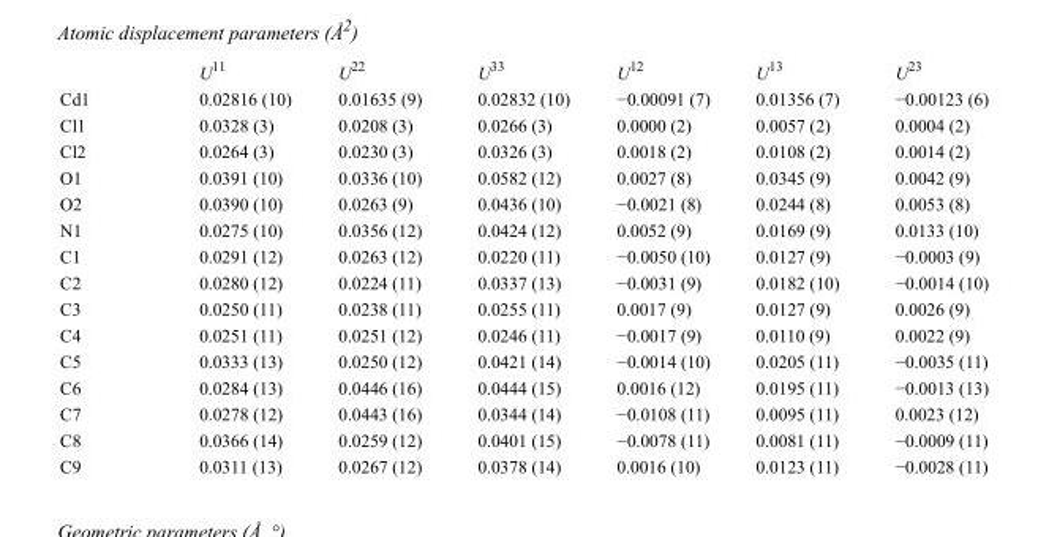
<table><thead><tr><td></td><td>U<sup>11</sup></td><td>U<sup>22</sup></td><td>U<sup>33</sup></td><td>U<sup>12</sup></td><td>U<sup>13</sup></td><td>U<sup>23</sup></td></tr></thead><tbody><tr><td>Cd1</td><td>0.02816 (10)</td><td>0.01635 (9)</td><td>0.02832 (10)</td><td>−0.00091 (7)</td><td>0.01356 (7)</td><td>−0.00123 (6)</td></tr><tr><td>Cl1</td><td>0.0328 (3)</td><td>0.0208 (3)</td><td>0.0266 (3)</td><td>0.0000 (2)</td><td>0.0057 (2)</td><td>0.0004 (2)</td></tr><tr><td>Cl2</td><td>0.0264 (3)</td><td>0.0230 (3)</td><td>0.0326 (3)</td><td>0.0018 (2)</td><td>0.0108 (2)</td><td>0.0014 (2)</td></tr><tr><td>O1</td><td>0.0391 (10)</td><td>0.0336 (10)</td><td>0.0582 (12)</td><td>0.0027 (8)</td><td>0.0345 (9)</td><td>0.0042 (9)</td></tr><tr><td>O2</td><td>0.0390 (10)</td><td>0.0263 (9)</td><td>0.0436 (10)</td><td>−0.0021 (8)</td><td>0.0244 (8)</td><td>0.0053 (8)</td></tr><tr><td>N1</td><td>0.0275 (10)</td><td>0.0356 (12)</td><td>0.0424 (12)</td><td>0.0052 (9)</td><td>0.0169 (9)</td><td>0.0133 (10)</td></tr><tr><td>C1</td><td>0.0291 (12)</td><td>0.0263 (12)</td><td>0.0220 (11)</td><td>−0.0050 (10)</td><td>0.0127 (9)</td><td>−0.0003 (9)</td></tr><tr><td>C2</td><td>0.0280 (12)</td><td>0.0224 (11)</td><td>0.0337 (13)</td><td>−0.0031 (9)</td><td>0.0182 (10)</td><td>−0.0014 (10)</td></tr><tr><td>C3</td><td>0.0250 (11)</td><td>0.0238 (11)</td><td>0.0255 (11)</td><td>0.0017 (9)</td><td>0.0127 (9)</td><td>0.0026 (9)</td></tr><tr><td>C4</td><td>0.0251 (11)</td><td>0.0251 (12)</td><td>0.0246 (11)</td><td>−0.0017 (9)</td><td>0.0110 (9)</td><td>0.0022 (9)</td></tr><tr><td>C5</td><td>0.0333 (13)</td><td>0.0250 (12)</td><td>0.0421 (14)</td><td>−0.0014 (10)</td><td>0.0205 (11)</td><td>−0.0035 (11)</td></tr><tr><td>C6</td><td>0.0284 (13)</td><td>0.0446 (16)</td><td>0.0444 (15)</td><td>0.0016 (12)</td><td>0.0195 (11)</td><td>−0.0013 (13)</td></tr><tr><td>C7</td><td>0.0278 (12)</td><td>0.0443 (16)</td><td>0.0344 (14)</td><td>−0.0108 (11)</td><td>0.0095 (11)</td><td>0.0023 (12)</td></tr><tr><td>C8</td><td>0.0366 (14)</td><td>0.0259 (12)</td><td>0.0401 (15)</td><td>−0.0078 (11)</td><td>0.0081 (11)</td><td>−0.0009 (11)</td></tr><tr><td>C9</td><td>0.0311 (13)</td><td>0.0267 (12)</td><td>0.0378 (14)</td><td>0.0016 (10)</td><td>0.0123 (11)</td><td>−0.0028 (11)</td></tr></tbody></table>